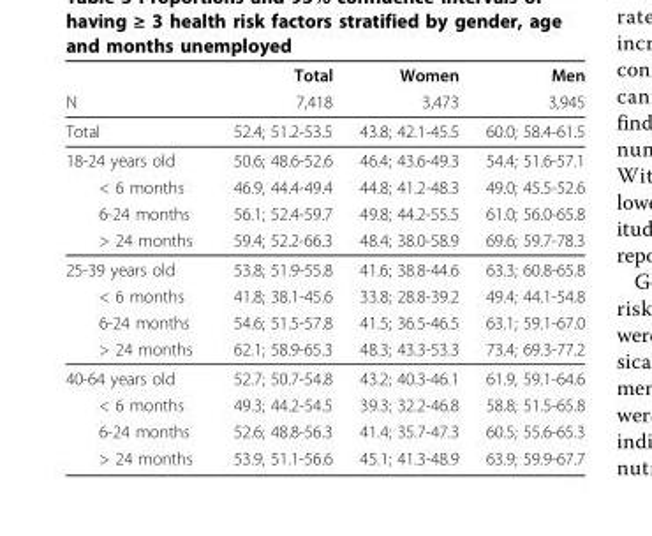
<table><thead><tr><td rowspan="2">N</td><td rowspan="2">Total 7,418</td><td rowspan="2">Women 3,473</td><td rowspan="2">Men 3,945</td></tr><tr></tr></thead><tbody><tr><td>Total</td><td>52.4; 51.2-53.5</td><td>43.8; 42.1-45.5</td><td>60.0; 58.4-61.5</td></tr><tr><td>18-24 years old</td><td>50.6; 48.6-52.6</td><td>46.4; 43.6-49.3</td><td>54.4; 51.6-57.1</td></tr><tr><td>&lt; 6 months</td><td>46.9, 44.4-49.4</td><td>44.8; 41.2-48.3</td><td>49.0; 45.5-52.6</td></tr><tr><td>6-24 months</td><td>56.1; 52.4-59.7</td><td>49.8; 44.2-55.5</td><td>61.0; 56.0-65.8</td></tr><tr><td>&gt; 24 months</td><td>59.4; 52.2-66.3</td><td>48.4; 38.0-58.9</td><td>69.6; 59.7-78.3</td></tr><tr><td>25-39 years old</td><td>53.8; 51.9-55.8</td><td>41.6; 38.8-44.6</td><td>63.3; 60.8-65.8</td></tr><tr><td>&lt; 6 months</td><td>41.8; 38.1-45.6</td><td>33.8; 28.8-39.2</td><td>49.4; 44.1-54.8</td></tr><tr><td>6-24 months</td><td>54.6; 51.5-57.8</td><td>41.5; 36.5-46.5</td><td>63.1; 59.1-67.0</td></tr><tr><td>&gt; 24 months</td><td>62.1; 58.9-65.3</td><td>48.3; 43.3-53.3</td><td>73.4; 69.3-77.2</td></tr><tr><td>40-64 years old</td><td>52.7; 50.7-54.8</td><td>43.2; 40.3-46.1</td><td>61.9, 59.1-64.6</td></tr><tr><td>&lt; 6 months</td><td>49.3; 44.2-54.5</td><td>39.3; 32.2-46.8</td><td>58.8; 51.5-65.8</td></tr><tr><td>6-24 months</td><td>52.6; 48.8-56.3</td><td>41.4; 35.7-47.3</td><td>60.5; 55.6-65.3</td></tr><tr><td>&gt; 24 months</td><td>53.9, 51.1-56.6</td><td>45.1; 41.3-48.9</td><td>63.9; 59.9-67.7</td></tr></tbody></table>